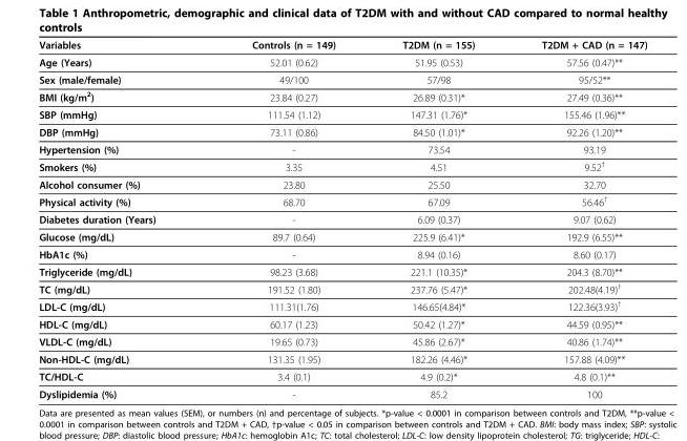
<table><thead><tr><td>Variables</td><td>Controls (n = 149)</td><td>T2DM (n = 155)</td><td>T2DM + CAD (n = 147)</td></tr></thead><tbody><tr><td>Age (Years)</td><td>52.01 (0.62)</td><td>51.95 (0.53)</td><td>57.56 (0.47)**</td></tr><tr><td>Sex (male/female)</td><td>49/100</td><td>57/98</td><td>95/52**</td></tr><tr><td>BMI (kg/m<sup>2</sup>)</td><td>23.84 (0.27)</td><td>26.89 (0.31)*</td><td>27.49 (0.36)**</td></tr><tr><td>SBP (mmHg)</td><td>111.54 (1.12)</td><td>147.31 (1.76)*</td><td>155.46 (1.96)**</td></tr><tr><td>DBP (mmHg)</td><td>73.11 (0.86)</td><td>84.50 (1.01)*</td><td>92.26 (1.20)**</td></tr><tr><td>Hypertension (%)</td><td>-</td><td>73.54</td><td>93.19</td></tr><tr><td>Smokers (%)</td><td>3.35</td><td>4.51</td><td>9.52<sup>†</sup></td></tr><tr><td>Alcohol consumer (%)</td><td>23.80</td><td>25.50</td><td>32.70</td></tr><tr><td>Physical activity (%)</td><td>68.70</td><td>67.09</td><td>56.46<sup>†</sup></td></tr><tr><td>Diabetes duration (Years)</td><td>-</td><td>6.09 (0.37)</td><td>9.07 (0.62)</td></tr><tr><td>Glucose (mg/dL)</td><td>89.7 (0.64)</td><td>225.9 (6.41)*</td><td>192.9 (6.55)**</td></tr><tr><td>HbA1c (%)</td><td>-</td><td>8.94 (0.16)</td><td>8.60 (0.17)</td></tr><tr><td>Triglyceride (mg/dL)</td><td>98.23 (3.68)</td><td>221.1 (10.35)*</td><td>204.3 (8.70)**</td></tr><tr><td>TC (mg/dL)</td><td>191.52 (1.80)</td><td>237.76 (5.47)*</td><td>202.48(4.19)<sup>†</sup></td></tr><tr><td>LDL-C (mg/dL)</td><td>111.31(1.76)</td><td>146.65(4.84)*</td><td>122.36(3.93)<sup>†</sup></td></tr><tr><td>HDL-C (mg/dL)</td><td>60.17 (1.23)</td><td>50.42 (1.27)*</td><td>44.59 (0.95)**</td></tr><tr><td>VLDL-C (mg/dL)</td><td>19.65 (0.73)</td><td>45.86 (2.67)*</td><td>40.86 (1.74)**</td></tr><tr><td>Non-HDL-C (mg/dL)</td><td>131.35 (1.95)</td><td>182.26 (4.46)*</td><td>157.88 (4.09)**</td></tr><tr><td>TC/HDL-C</td><td>3.4 (0.1)</td><td>4.9 (0.2)*</td><td>4.8 (0.1)**</td></tr><tr><td>Dyslipidemia (%)</td><td>-</td><td>85.2</td><td>100</td></tr></tbody></table>